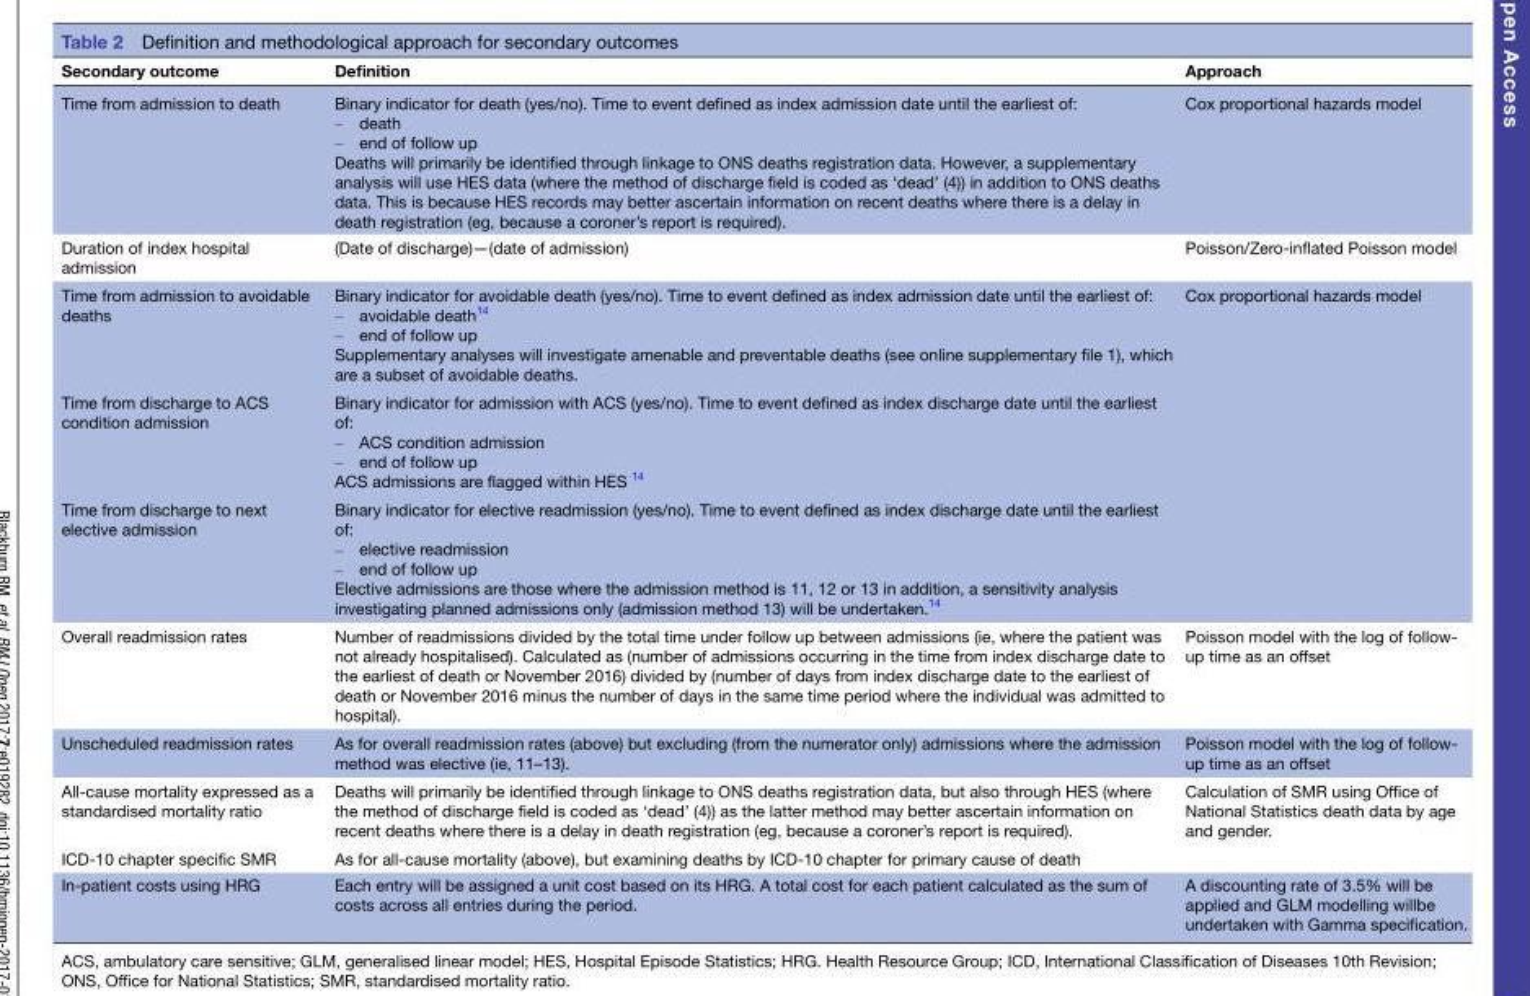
<table><thead><tr><td>Secondary outcome</td><td>Definition</td><td>Approach</td></tr></thead><tbody><tr><td>Time from admission to death</td><td>Binary indicator for death (yes/no). Time to event defined as index admission date until the earliest of: – death – end of follow up Deaths will primarily be identified through linkage to ONS deaths registration data. However, a supplementary analysis will use HES data (where the method of discharge field is coded as ‘dead’ (4)) in addition to ONS deaths data. This is because HES records may better ascertain information on recent deaths where there is a delay in death registration (eg, because a coroner’s report is required).</td><td>Cox proportional hazards model</td></tr><tr><td>Duration of index hospital admission</td><td>(Date of discharge)—(date of admission)</td><td>Poisson/Zero-inflated Poisson model</td></tr><tr><td>Time from admission to avoidable deaths</td><td>Binary indicator for avoidable death (yes/no). Time to event defined as index admission date until the earliest of: – avoidable death14 – end of follow up Supplementary analyses will investigate amenable and preventable deaths (see online supplementary file 1), which are a subset of avoidable deaths.</td><td rowspan="3">Cox proportional hazards model</td></tr><tr><td>Time from discharge to ACS condition admission</td><td>Binary indicator for admission with ACS (yes/no). Time to event defined as index discharge date until the earliest of: – ACS condition admission – end of follow up ACS admissions are flagged within HES 14</td></tr><tr><td>Time from discharge to next elective admission</td><td>Binary indicator for elective readmission (yes/no). Time to event defined as index discharge date until the earliest of: – elective readmission – end of follow up Elective admissions are those where the admission method is 11, 12 or 13 in addition, a sensitivity analysis investigating planned admissions only (admission method 13) will be undertaken.14</td></tr><tr><td>Overall readmission rates</td><td>Number of readmissions divided by the total time under follow up between admissions (ie, where the patient was not already hospitalised). Calculated as (number of admissions occurring in the time from index discharge date to the earliest of death or November 2016) divided by (number of days from index discharge date to the earliest of death or November 2016 minus the number of days in the same time period where the individual was admitted to hospital).</td><td>Poisson model with the log of follow- up time as an offset</td></tr><tr><td>Unscheduled readmission rates</td><td>As for overall readmission rates (above) but excluding (from the numerator only) admissions where the admission method was elective (ie, 11–13).</td><td>Poisson model with the log of follow- up time as an offset</td></tr><tr><td>All-cause mortality expressed as a standardised mortality ratio</td><td>Deaths will primarily be identified through linkage to ONS deaths registration data, but also through HES (where the method of discharge field is coded as ‘dead’ (4)) as the latter method may better ascertain information on recent deaths where there is a delay in death registration (eg, because a coroner’s report is required).</td><td rowspan="2">Calculation of SMR using Office of National Statistics death data by age and gender.</td></tr><tr><td>ICD-10 chapter specific SMR</td><td>As for all-cause mortality (above), but examining deaths by ICD-10 chapter for primary cause of death</td></tr><tr><td>In-patient costs using HRG</td><td>Each entry will be assigned a unit cost based on its HRG. A total cost for each patient calculated as the sum of costs across all entries during the period.</td><td>A discounting rate of 3.5% will be applied and GLM modelling willbe undertaken with Gamma specification.</td></tr></tbody></table>